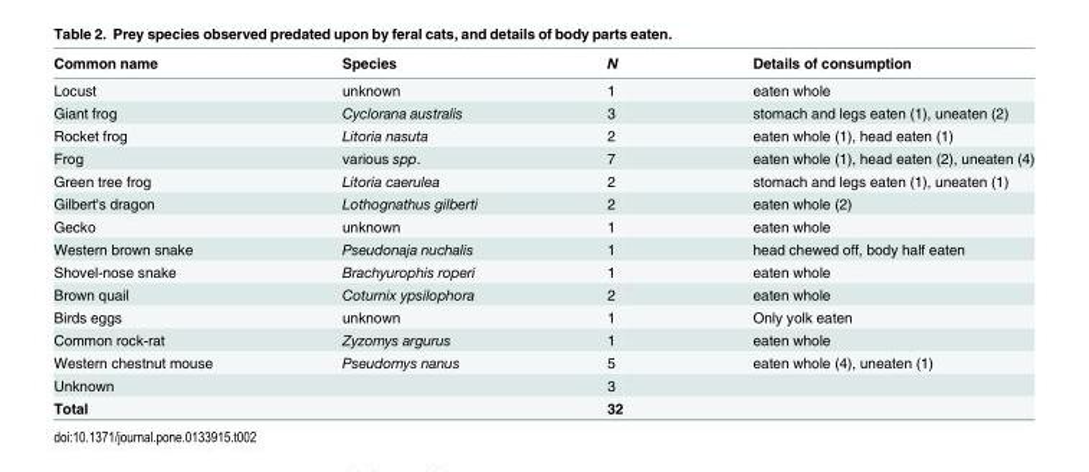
<table><thead><tr><td>Common name</td><td>Species</td><td>N</td><td>Details of consumption</td></tr></thead><tbody><tr><td>Locust</td><td>unknown</td><td>1</td><td>eaten whole</td></tr><tr><td>Giant frog</td><td>Cyclorana australis</td><td>3</td><td>stomach and legs eaten (1), uneaten (2)</td></tr><tr><td>Rocket frog</td><td>Litoria nasuta</td><td>2</td><td>eaten whole (1), head eaten (1)</td></tr><tr><td>Frog</td><td>various spp.</td><td>7</td><td>eaten whole (1), head eaten (2), uneaten (4)</td></tr><tr><td>Green tree frog</td><td>Litoria caerulea</td><td>2</td><td>stomach and legs eaten (1), uneaten (1)</td></tr><tr><td>Gilbert&#x27;s dragon</td><td>Lothognathus gilberti</td><td>2</td><td>eaten whole (2)</td></tr><tr><td>Gecko</td><td>unknown</td><td>1</td><td>eaten whole</td></tr><tr><td>Western brown snake</td><td>Pseudonaja nuchalis</td><td>1</td><td>head chewed off, body half eaten</td></tr><tr><td>Shovel-nose snake</td><td>Brachyurophis roperi</td><td>1</td><td>eaten whole</td></tr><tr><td>Brown quail</td><td>Coturnix ypsilophora</td><td>2</td><td>eaten whole</td></tr><tr><td>Birds eggs</td><td>unknown</td><td>1</td><td>Only yolk eaten</td></tr><tr><td>Common rock-rat</td><td>Zyzomys argurus</td><td>1</td><td>eaten whole</td></tr><tr><td>Western chestnut mouse</td><td>Pseudomys nanus</td><td>5</td><td>eaten whole (4), uneaten (1)</td></tr><tr><td>Unknown</td><td></td><td>3</td><td></td></tr><tr><td>Total</td><td></td><td>32</td><td></td></tr></tbody></table>